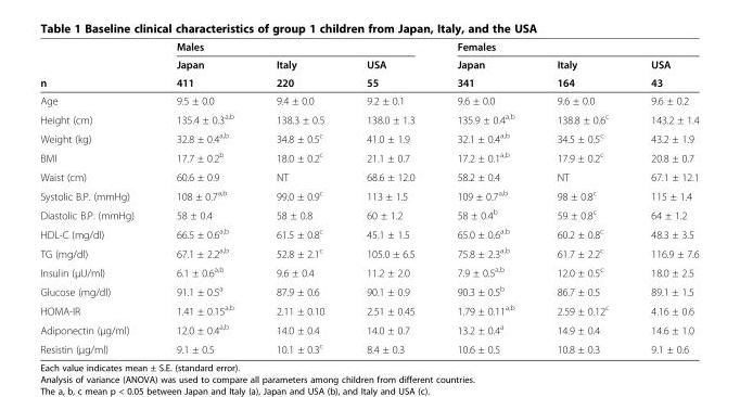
<table><thead><tr><td rowspan="3">n</td><td colspan="3">Males</td><td colspan="3">Females</td></tr><tr><td rowspan="2">Japan 411</td><td rowspan="2">Italy 220</td><td rowspan="2">USA 55</td><td rowspan="2">Japan 341</td><td rowspan="2">Italy 164</td><td rowspan="2">USA 43</td></tr><tr></tr></thead><tbody><tr><td>Age</td><td>9.5 ± 0.0</td><td>9.4 ± 0.0</td><td>9.2 ± 0.1</td><td>9.6 ± 0.0</td><td>9.6 ± 0.0</td><td>9.6 ± 0.2</td></tr><tr><td>Height (cm)</td><td>135.4 ± 0.3<sup>a,b</sup></td><td>138.3 ± 0.5</td><td>138.0 ± 1.3</td><td>135.9 ± 0.4<sup>a,b</sup></td><td>138.8 ± 0.6<sup>c</sup></td><td>143.2 ± 1.4</td></tr><tr><td>Weight (kg)</td><td>32.8 ± 0.4<sup>a,b</sup></td><td>34.8 ± 0.5<sup>c</sup></td><td>41.0 ± 1.9</td><td>32.1 ± 0.4<sup>a,b</sup></td><td>34.5 ± 0.5<sup>c</sup></td><td>43.2 ± 1.9</td></tr><tr><td>BMI</td><td>17.7 ± 0.2<sup>b</sup></td><td>18.0 ± 0.2<sup>c</sup></td><td>21.1 ± 0.7</td><td>17.2 ± 0.1<sup>a,b</sup></td><td>17.9 ± 0.2<sup>c</sup></td><td>20.8 ± 0.7</td></tr><tr><td>Waist (cm)</td><td>60.6 ± 0.9</td><td>NT</td><td>68.6 ± 12.0</td><td>58.2 ± 0.4</td><td>NT</td><td>67.1 ± 12.1</td></tr><tr><td>Systolic B.P. (mmHg)</td><td>108 ± 0.7<sup>a,b</sup></td><td>99.0 ± 0.9<sup>c</sup></td><td>113 ± 1.5</td><td>109 ± 0.7<sup>a,b</sup></td><td>98 ± 0.8<sup>c</sup></td><td>115 ± 1.4</td></tr><tr><td>Diastolic B.P. (mmHg)</td><td>58 ± 0.4</td><td>58 ± 0.8</td><td>60 ± 1.2</td><td>58 ± 0.4<sup>b</sup></td><td>59 ± 0.8<sup>c</sup></td><td>64 ± 1.2</td></tr><tr><td>HDL-C (mg/dl)</td><td>66.5 ± 0.6<sup>a,b</sup></td><td>61.5 ± 0.8<sup>c</sup></td><td>45.1 ± 1.5</td><td>65.0 ± 0.6<sup>a,b</sup></td><td>60.2 ± 0.8<sup>c</sup></td><td>48.3 ± 3.5</td></tr><tr><td>TG (mg/dl)</td><td>67.1 ± 2.2<sup>a,b</sup></td><td>52.8 ± 2.1<sup>c</sup></td><td>105.0 ± 6.5</td><td>75.8 ± 2.3<sup>a,b</sup></td><td>61.7 ± 2.2<sup>c</sup></td><td>116.9 ± 7.6</td></tr><tr><td>Insulin (μU/ml)</td><td>6.1 ± 0.6<sup>a,b</sup></td><td>9.6 ± 0.4</td><td>11.2 ± 2.0</td><td>7.9 ± 0.5<sup>a,b</sup></td><td>12.0 ± 0.5<sup>c</sup></td><td>18.0 ± 2.5</td></tr><tr><td>Glucose (mg/dl)</td><td>91.1 ± 0.5<sup>a</sup></td><td>87.9 ± 0.6</td><td>90.1 ± 0.9</td><td>90.3 ± 0.5<sup>b</sup></td><td>86.7 ± 0.5</td><td>89.1 ± 1.5</td></tr><tr><td>HOMA-IR</td><td>1.41 ± 0.15<sup>a,b</sup></td><td>2.11 ± 0.10</td><td>2.51 ± 0.45</td><td>1.79 ± 0.11<sup>a,b</sup></td><td>2.59 ± 0.12<sup>c</sup></td><td>4.16 ± 0.6</td></tr><tr><td>Adiponectin (μg/ml)</td><td>12.0 ± 0.4<sup>a,b</sup></td><td>14.0 ± 0.4</td><td>14.0 ± 0.7</td><td>13.2 ± 0.4<sup>a</sup></td><td>14.9 ± 0.4</td><td>14.6 ± 1.0</td></tr><tr><td>Resistin (μg/ml)</td><td>9.1 ± 0.5</td><td>10.1 ± 0.3<sup>c</sup></td><td>8.4 ± 0.3</td><td>10.6 ± 0.5</td><td>10.8 ± 0.3</td><td>9.1 ± 0.6</td></tr></tbody></table>